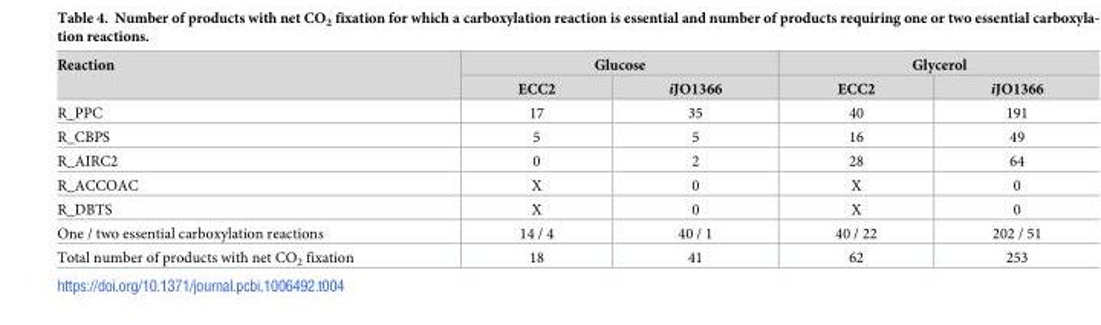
<table><thead><tr><td rowspan="2">Reaction</td><td colspan="2">Glucose</td><td colspan="2">Glycerol</td></tr><tr><td>ECC2</td><td>iJO1366</td><td>ECC2</td><td>iJO1366</td></tr></thead><tbody><tr><td>R_PPC</td><td>17</td><td>35</td><td>40</td><td>191</td></tr><tr><td>R_CBPS</td><td>5</td><td>5</td><td>16</td><td>49</td></tr><tr><td>R_AIRC2</td><td>0</td><td>2</td><td>28</td><td>64</td></tr><tr><td>R_ACCOAC</td><td>X</td><td>0</td><td>X</td><td>0</td></tr><tr><td>R_DBTS</td><td>X</td><td>0</td><td>X</td><td>0</td></tr><tr><td>One / two essential carboxylation reactions</td><td>14 / 4</td><td>40 / 1</td><td>40 / 22</td><td>202 / 51</td></tr><tr><td>Total number of products with net CO<sub>2</sub> fixation</td><td>18</td><td>41</td><td>62</td><td>253</td></tr></tbody></table>